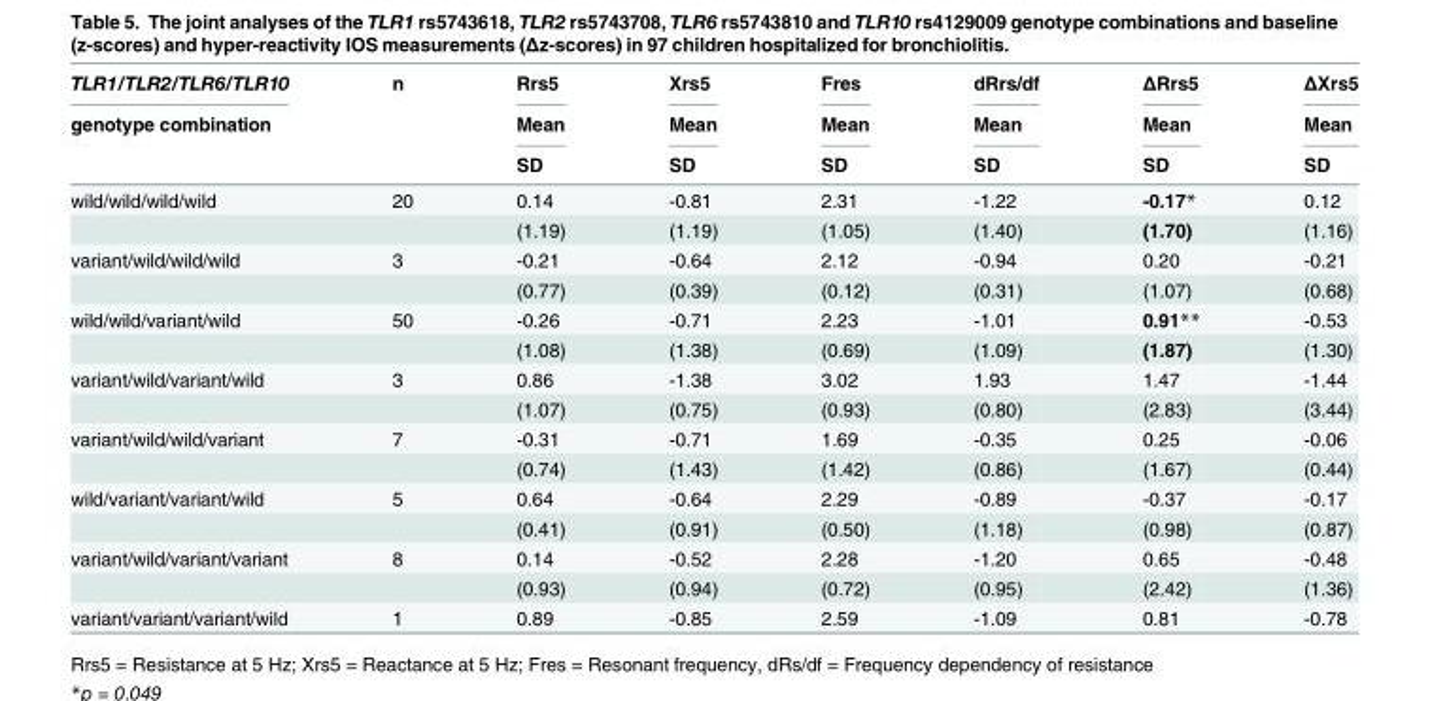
<table><thead><tr><td rowspan="3">TLR1/TLR2/TLR6/TLR10 genotype combination</td><td rowspan="3">n</td><td rowspan="3">Rrs5 Mean SD</td><td rowspan="3">Xrs5 Mean SD</td><td rowspan="3">Fres Mean SD</td><td rowspan="3">dRrs/df Mean SD</td><td rowspan="3">ΔRrs5 Mean SD</td><td rowspan="3">ΔXrs5 Mean SD</td></tr><tr></tr><tr></tr></thead><tbody><tr><td rowspan="2">wild/wild/wild/wild</td><td>20</td><td>0.14</td><td>-0.81</td><td>2.31</td><td>-1.22</td><td>-0.17*</td><td>0.12</td></tr><tr><td></td><td>(1.19)</td><td>(1.19)</td><td>(1.05)</td><td>(1.40)</td><td>(1.70)</td><td>(1.16)</td></tr><tr><td rowspan="2">variant/wild/wild/wild</td><td>3</td><td>-0.21</td><td>-0.64</td><td>2.12</td><td>-0.94</td><td>0.20</td><td>-0.21</td></tr><tr><td></td><td>(0.77)</td><td>(0.39)</td><td>(0.12)</td><td>(0.31)</td><td>(1.07)</td><td>(0.68)</td></tr><tr><td rowspan="2">wild/wild/variant/wild</td><td>50</td><td>-0.26</td><td>-0.71</td><td>2.23</td><td>-1.01</td><td>0.91**</td><td>-0.53</td></tr><tr><td></td><td>(1.08)</td><td>(1.38)</td><td>(0.69)</td><td>(1.09)</td><td>(1.87)</td><td>(1.30)</td></tr><tr><td rowspan="2">variant/wild/variant/wild</td><td>3</td><td>0.86</td><td>-1.38</td><td>3.02</td><td>1.93</td><td>1.47</td><td>-1.44</td></tr><tr><td></td><td>(1.07)</td><td>(0.75)</td><td>(0.93)</td><td>(0.80)</td><td>(2.83)</td><td>(3.44)</td></tr><tr><td rowspan="2">variant/wild/wild/variant</td><td>7</td><td>-0.31</td><td>-0.71</td><td>1.69</td><td>-0.35</td><td>0.25</td><td>-0.06</td></tr><tr><td></td><td>(0.74)</td><td>(1.43)</td><td>(1.42)</td><td>(0.86)</td><td>(1.67)</td><td>(0.44)</td></tr><tr><td rowspan="2">wild/variant/variant/wild</td><td>5</td><td>0.64</td><td>-0.64</td><td>2.29</td><td>-0.89</td><td>-0.37</td><td>-0.17</td></tr><tr><td></td><td>(0.41)</td><td>(0.91)</td><td>(0.50)</td><td>(1.18)</td><td>(0.98)</td><td>(0.87)</td></tr><tr><td rowspan="2">variant/wild/variant/variant</td><td>8</td><td>0.14</td><td>-0.52</td><td>2.28</td><td>-1.20</td><td>0.65</td><td>-0.48</td></tr><tr><td></td><td>(0.93)</td><td>(0.94)</td><td>(0.72)</td><td>(0.95)</td><td>(2.42)</td><td>(1.36)</td></tr><tr><td>variant/variant/variant/wild</td><td>1</td><td>0.89</td><td>-0.85</td><td>2.59</td><td>-1.09</td><td>0.81</td><td>-0.78</td></tr></tbody></table>